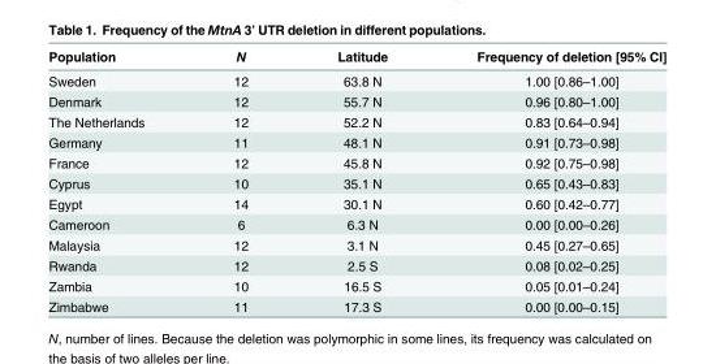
<table><thead><tr><td>Population</td><td>N</td><td>Latitude</td><td>Frequency of deletion [95% CI]</td></tr></thead><tbody><tr><td>Sweden</td><td>12</td><td>63.8 N</td><td>1.00 [0.86–1.00]</td></tr><tr><td>Denmark</td><td>12</td><td>55.7 N</td><td>0.96 [0.80–1.00]</td></tr><tr><td>The Netherlands</td><td>12</td><td>52.2 N</td><td>0.83 [0.64–0.94]</td></tr><tr><td>Germany</td><td>11</td><td>48.1 N</td><td>0.91 [0.73–0.98]</td></tr><tr><td>France</td><td>12</td><td>45.8 N</td><td>0.92 [0.75–0.98]</td></tr><tr><td>Cyprus</td><td>10</td><td>35.1 N</td><td>0.65 [0.43–0.83]</td></tr><tr><td>Egypt</td><td>14</td><td>30.1 N</td><td>0.60 [0.42–0.77]</td></tr><tr><td>Cameroon</td><td>6</td><td>6.3 N</td><td>0.00 [0.00–0.26]</td></tr><tr><td>Malaysia</td><td>12</td><td>3.1 N</td><td>0.45 [0.27–0.65]</td></tr><tr><td>Rwanda</td><td>12</td><td>2.5 S</td><td>0.08 [0.02–0.25]</td></tr><tr><td>Zambia</td><td>10</td><td>16.5 S</td><td>0.05 [0.01–0.24]</td></tr><tr><td>Zimbabwe</td><td>11</td><td>17.3 S</td><td>0.00 [0.00–0.15]</td></tr></tbody></table>